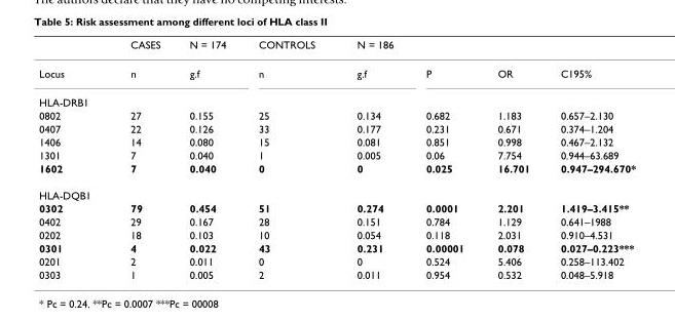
<table><thead><tr><td></td><td>CASES</td><td>N = 174</td><td>CONTROLS</td><td>N = 186</td><td></td><td></td><td></td></tr></thead><tbody><tr><td>Locus</td><td>n</td><td>g.f</td><td>n</td><td>g.f</td><td>P</td><td>OR</td><td>C195%</td></tr><tr><td colspan="8">HLA-DRB1</td></tr><tr><td>0802</td><td>27</td><td>0.155</td><td>25</td><td>0.134</td><td>0.682</td><td>1.183</td><td>0.657–2.130</td></tr><tr><td>0407</td><td>22</td><td>0.126</td><td>33</td><td>0.177</td><td>0.231</td><td>0.671</td><td>0.374–1.204</td></tr><tr><td>1406</td><td>14</td><td>0.080</td><td>15</td><td>0.081</td><td>0.851</td><td>0.998</td><td>0.467–2.132</td></tr><tr><td>1301</td><td>7</td><td>0.040</td><td>1</td><td>0.005</td><td>0.06</td><td>7.754</td><td>0.944–63.689</td></tr><tr><td>1602</td><td>7</td><td>0.040</td><td>0</td><td>0</td><td>0.025</td><td>16.701</td><td>0.947–294.670*</td></tr><tr><td colspan="8">HLA-DQB1</td></tr><tr><td>0302</td><td>79</td><td>0.454</td><td>51</td><td>0.274</td><td>0.0001</td><td>2.201</td><td>1.419–3.415**</td></tr><tr><td>0402</td><td>29</td><td>0.167</td><td>28</td><td>0.151</td><td>0.784</td><td>1.129</td><td>0.641–1988</td></tr><tr><td>0202</td><td>18</td><td>0.103</td><td>10</td><td>0.054</td><td>0.118</td><td>2.031</td><td>0.910–4.531</td></tr><tr><td>0301</td><td>4</td><td>0.022</td><td>43</td><td>0.231</td><td>0.00001</td><td>0.078</td><td>0.027–0.223***</td></tr><tr><td>0201</td><td>2</td><td>0.011</td><td>0</td><td>0</td><td>0.524</td><td>5.406</td><td>0.258–113.402</td></tr><tr><td>0303</td><td>1</td><td>0.005</td><td>2</td><td>0.011</td><td>0.954</td><td>0.532</td><td>0.048–5.918</td></tr></tbody></table>